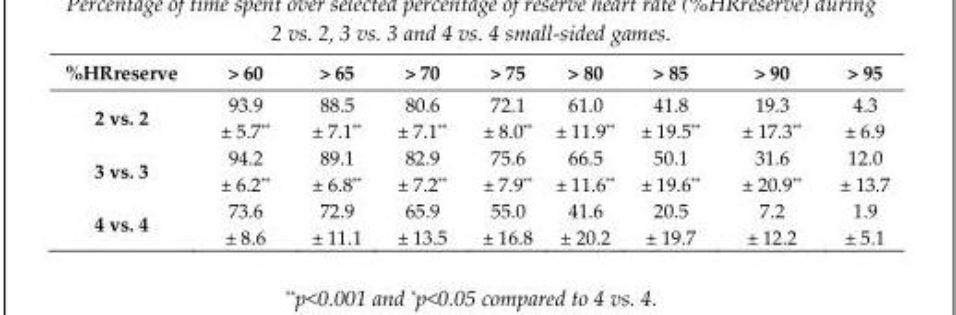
<table><thead><tr><td>%HRreserve</td><td>&gt; 60</td><td>&gt; 65</td><td>&gt; 70</td><td>&gt; 75</td><td>&gt; 80</td><td>&gt; 85</td><td>&gt; 90</td><td>&gt; 95</td></tr></thead><tbody><tr><td>2 vs. 2</td><td>93.9 ± 5.7**</td><td>88.5 ± 7.1**</td><td>80.6 ± 7.1**</td><td>72.1 ± 8.0**</td><td>61.0 ± 11.9**</td><td>41.8 ± 19.5**</td><td>19.3 ± 17.3**</td><td>4.3 ± 6.9</td></tr><tr><td>3 vs. 3</td><td>94.2 ± 6.2**</td><td>89.1 ± 6.8**</td><td>82.9 ± 7.2**</td><td>75.6 ± 7.9**</td><td>66.5 ± 11.6**</td><td>50.1 ± 19.6**</td><td>31.6 ± 20.9**</td><td>12.0 ± 13.7</td></tr><tr><td>4 vs. 4</td><td>73.6 ± 8.6</td><td>72.9 ± 11.1</td><td>65.9 ± 13.5</td><td>55.0 ± 16.8</td><td>41.6 ± 20.2</td><td>20.5 ± 19.7</td><td>7.2 ± 12.2</td><td>1.9 ± 5.1</td></tr></tbody></table>